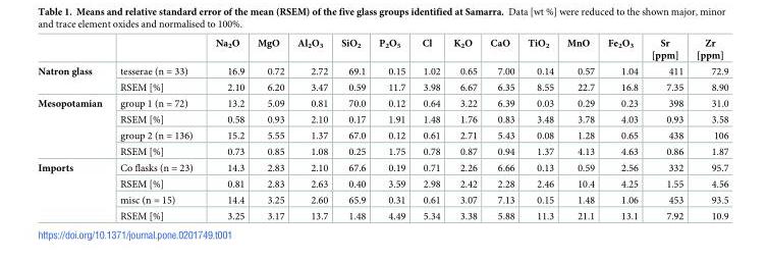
<table><thead><tr><td></td><td></td><td>Na<sub>2</sub>O</td><td>MgO</td><td>Al<sub>2</sub>O<sub>3</sub></td><td>SiO<sub>2</sub></td><td>P<sub>2</sub>O<sub>5</sub></td><td>Cl</td><td>K<sub>2</sub>O</td><td>CaO</td><td>TiO<sub>2</sub></td><td>MnO</td><td>Fe<sub>2</sub>O<sub>3</sub></td><td>Sr [ppm]</td><td>Zr [ppm]</td></tr></thead><tbody><tr><td rowspan="2">Natron glass</td><td>tesserae (n = 33)</td><td>16.9</td><td>0.72</td><td>2.72</td><td>69.1</td><td>0.15</td><td>1.02</td><td>0.65</td><td>7.00</td><td>0.14</td><td>0.57</td><td>1.04</td><td>411</td><td>72.9</td></tr><tr><td>RSEM [%]</td><td>2.10</td><td>6.20</td><td>3.47</td><td>0.59</td><td>11.7</td><td>3.98</td><td>6.67</td><td>6.35</td><td>8.55</td><td>22.7</td><td>16.8</td><td>7.35</td><td>8.90</td></tr><tr><td rowspan="4">Mesopotamian</td><td>group 1 (n = 72)</td><td>13.2</td><td>5.09</td><td>0.81</td><td>70.0</td><td>0.12</td><td>0.64</td><td>3.22</td><td>6.39</td><td>0.03</td><td>0.29</td><td>0.23</td><td>398</td><td>31.0</td></tr><tr><td>RSEM [%]</td><td>0.58</td><td>0.93</td><td>2.10</td><td>0.17</td><td>1.91</td><td>1.48</td><td>1.76</td><td>0.83</td><td>3.48</td><td>3.78</td><td>4.03</td><td>0.93</td><td>3.58</td></tr><tr><td>group 2 (n = 136)</td><td>15.2</td><td>5.55</td><td>1.37</td><td>67.0</td><td>0.12</td><td>0.61</td><td>2.71</td><td>5.43</td><td>0.08</td><td>1.28</td><td>0.65</td><td>438</td><td>106</td></tr><tr><td>RSEM [%]</td><td>0.73</td><td>0.85</td><td>1.08</td><td>0.25</td><td>1.75</td><td>0.78</td><td>0.87</td><td>0.94</td><td>1.37</td><td>4.13</td><td>4.63</td><td>0.86</td><td>1.87</td></tr><tr><td rowspan="4">Imports</td><td>Co flasks (n = 23)</td><td>14.3</td><td>2.83</td><td>2.10</td><td>67.6</td><td>0.19</td><td>0.71</td><td>2.26</td><td>6.66</td><td>0.13</td><td>0.59</td><td>2.56</td><td>332</td><td>95.7</td></tr><tr><td>RSEM [%]</td><td>0.81</td><td>2.83</td><td>2.63</td><td>0.40</td><td>3.59</td><td>2.98</td><td>2.42</td><td>2.28</td><td>2.46</td><td>10.4</td><td>4.25</td><td>1.55</td><td>4.56</td></tr><tr><td>misc (n = 15)</td><td>14.4</td><td>3.25</td><td>2.60</td><td>65.9</td><td>0.31</td><td>0.61</td><td>3.07</td><td>7.13</td><td>0.15</td><td>1.48</td><td>1.06</td><td>453</td><td>93.5</td></tr><tr><td>RSEM [%]</td><td>3.25</td><td>3.17</td><td>13.7</td><td>1.48</td><td>4.49</td><td>5.34</td><td>3.38</td><td>5.88</td><td>11.3</td><td>21.1</td><td>13.1</td><td>7.92</td><td>10.9</td></tr></tbody></table>